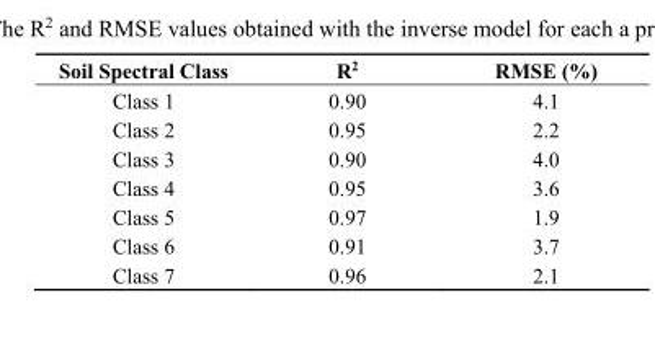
<table><thead><tr><td>Soil Spectral Class</td><td>R<sup>2</sup></td><td>RMSE (%)</td></tr></thead><tbody><tr><td>Class 1</td><td>0.90</td><td>4.1</td></tr><tr><td>Class 2</td><td>0.95</td><td>2.2</td></tr><tr><td>Class 3</td><td>0.90</td><td>4.0</td></tr><tr><td>Class 4</td><td>0.95</td><td>3.6</td></tr><tr><td>Class 5</td><td>0.97</td><td>1.9</td></tr><tr><td>Class 6</td><td>0.91</td><td>3.7</td></tr><tr><td>Class 7</td><td>0.96</td><td>2.1</td></tr></tbody></table>